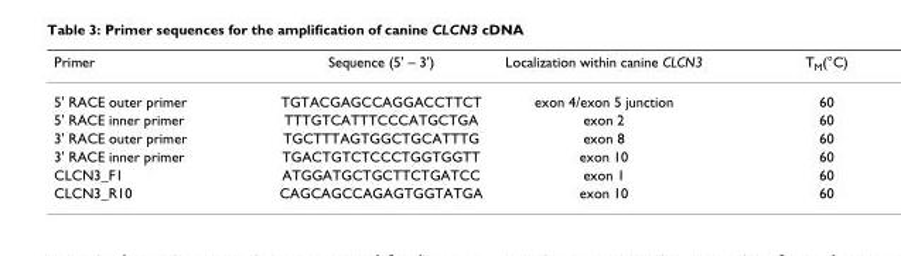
<table><thead><tr><td>Primer</td><td>Sequence (5&#x27; – 3&#x27;)</td><td>Localization within canine CLCN3</td><td>T<sub>M</sub>(°C)</td></tr></thead><tbody><tr><td>5&#x27; RACE outer primer</td><td>TGTACGAGCCAGGACCTTCT</td><td>exon 4/exon 5 junction</td><td>60</td></tr><tr><td>5&#x27; RACE inner primer</td><td>TTTGTCATTTCCCATGCTGA</td><td>exon 2</td><td>60</td></tr><tr><td>3&#x27; RACE outer primer</td><td>TGCTTTAGTGGCTGCATTTG</td><td>exon 8</td><td>60</td></tr><tr><td>3&#x27; RACE inner primer</td><td>TGACTGTCTCCCTGGTGGTT</td><td>exon 10</td><td>60</td></tr><tr><td>CLCN3_F1</td><td>ATGGATGCTGCTTCTGATCC</td><td>exon 1</td><td>60</td></tr><tr><td>CLCN3_R10</td><td>CAGCAGCCAGAGTGGTATGA</td><td>exon 10</td><td>60</td></tr></tbody></table>